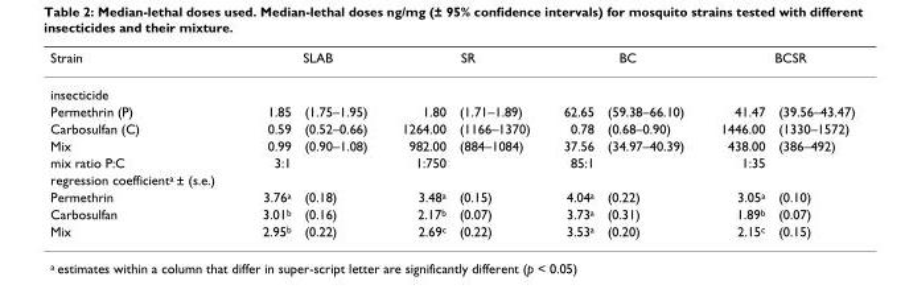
<table><thead><tr><td rowspan="2">Strain insecticide</td><td colspan="2">SLAB</td><td colspan="2">SR</td><td colspan="2">BC</td><td colspan="2">BCSR</td></tr><tr><td></td><td></td><td></td><td></td><td></td><td></td><td></td><td></td></tr></thead><tbody><tr><td>Permethrin (P)</td><td>1.85</td><td>(1.75–1.95)</td><td>1.80</td><td>(1.71–1.89)</td><td>62.65</td><td>(59.38–66.10)</td><td>41.47</td><td>(39.56–43.47)</td></tr><tr><td>Carbosulfan (C)</td><td>0.59</td><td>(0.52–0.66)</td><td>1264.00</td><td>(1166–1370)</td><td>0.78</td><td>(0.68–0.90)</td><td>1446.00</td><td>(1330–1572)</td></tr><tr><td>Mix</td><td>0.99</td><td>(0.90–1.08)</td><td>982.00</td><td>(884–1084)</td><td>37.56</td><td>(34.97–40.39)</td><td>438.00</td><td>(386–492)</td></tr><tr><td>mix ratio P:C</td><td>3:1</td><td></td><td>1:750</td><td></td><td>85:1</td><td></td><td>1:35</td><td></td></tr><tr><td colspan="9">regression coefficient<sup>a</sup> ± (s.e.)</td></tr><tr><td>Permethrin</td><td>3.76<sup>a</sup></td><td>(0.18)</td><td>3.48<sup>a</sup></td><td>(0.15)</td><td>4.04<sup>a</sup></td><td>(0.22)</td><td>3.05<sup>a</sup></td><td>(0.10)</td></tr><tr><td>Carbosulfan</td><td>3.01<sup>b</sup></td><td>(0.16)</td><td>2.17<sup>b</sup></td><td>(0.07)</td><td>3.73<sup>a</sup></td><td>(0.31)</td><td>1.89<sup>b</sup></td><td>(0.07)</td></tr><tr><td>Mix</td><td>2.95<sup>b</sup></td><td>(0.22)</td><td>2.69<sup>c</sup></td><td>(0.22)</td><td>3.53<sup>a</sup></td><td>(0.20)</td><td>2.15<sup>c</sup></td><td>(0.15)</td></tr></tbody></table>